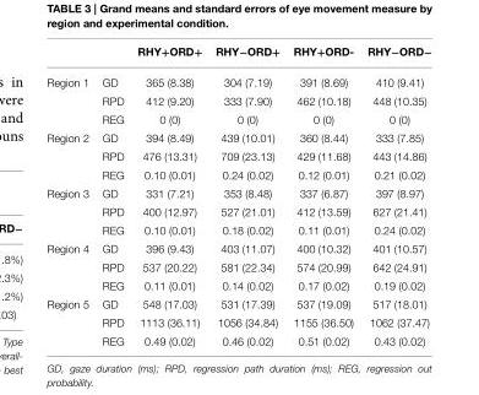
<table><thead><tr><td></td><td></td><td>RHY+ORD+</td><td>RHY−ORD+</td><td>RHY+ORD-</td><td>RHY−ORD−</td></tr></thead><tbody><tr><td rowspan="3">Region 1</td><td>GD</td><td>365 (8.38)</td><td>304 (7.19)</td><td>391 (8.69)</td><td>410 (9.41)</td></tr><tr><td>RPD</td><td>412 (9.20)</td><td>333 (7.90)</td><td>462 (10.18)</td><td>448 (10.35)</td></tr><tr><td>REG</td><td>0 (0)</td><td>0 (0)</td><td>0 (0)</td><td>0 (0)</td></tr><tr><td rowspan="3">Region 2</td><td>GD</td><td>394 (8.49)</td><td>439 (10.01)</td><td>360 (8.44)</td><td>333 (7.85)</td></tr><tr><td>RPD</td><td>476 (13.31)</td><td>709 (23.13)</td><td>429 (11.68)</td><td>443 (14.86)</td></tr><tr><td>REG</td><td>0.10 (0.01)</td><td>0.24 (0.02)</td><td>0.12 (0.01)</td><td>0.21 (0.02)</td></tr><tr><td rowspan="3">Region 3</td><td>GD</td><td>331 (7.21)</td><td>353 (8.48)</td><td>337 (6.87)</td><td>397 (8.97)</td></tr><tr><td>RPD</td><td>400 (12.97)</td><td>527 (21.01)</td><td>412 (13.59)</td><td>627 (21.41)</td></tr><tr><td>REG</td><td>0.10 (0.01)</td><td>0.18 (0.02)</td><td>0.11 (0.01)</td><td>0.24 (0.02)</td></tr><tr><td rowspan="3">Region 4</td><td>GD</td><td>396 (9.43)</td><td>403 (11.07)</td><td>400 (10.32)</td><td>401 (10.57)</td></tr><tr><td>RPD</td><td>537 (20.22)</td><td>581 (22.34)</td><td>574 (20.99)</td><td>642 (24.91)</td></tr><tr><td>REG</td><td>0.11 (0.01)</td><td>0.14 (0.02)</td><td>0.17 (0.02)</td><td>0.19 (0.02)</td></tr><tr><td rowspan="3">Region 5</td><td>GD</td><td>548 (17.03)</td><td>531 (17.39)</td><td>537 (19.09)</td><td>517 (18.01)</td></tr><tr><td>RPD</td><td>1113 (36.11)</td><td>1056 (34.84)</td><td>1155 (36.50)</td><td>1062 (37.47)</td></tr><tr><td>REG</td><td>0.49 (0.02)</td><td>0.46 (0.02)</td><td>0.51 (0.02)</td><td>0.43 (0.02)</td></tr></tbody></table>